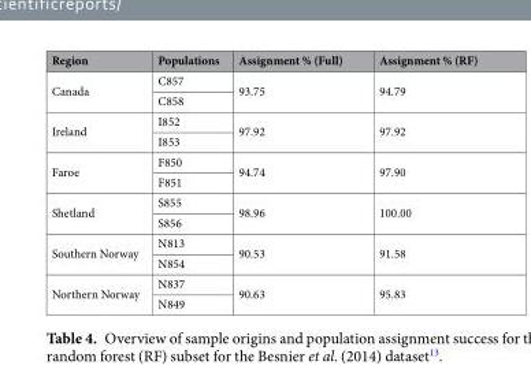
<table><thead><tr><td>Region</td><td>Populations</td><td>Assignment % (Full)</td><td>Assignment % (RF)</td></tr></thead><tbody><tr><td rowspan="2">Canada</td><td>C857</td><td rowspan="2">93.75</td><td rowspan="2">94.79</td></tr><tr><td>C858</td></tr><tr><td rowspan="2">Ireland</td><td>I852</td><td rowspan="2">97.92</td><td rowspan="2">97.92</td></tr><tr><td>I853</td></tr><tr><td rowspan="2">Faroe</td><td>F850</td><td rowspan="2">94.74</td><td rowspan="2">97.90</td></tr><tr><td>F851</td></tr><tr><td rowspan="2">Shetland</td><td>S855</td><td rowspan="2">98.96</td><td rowspan="2">100.00</td></tr><tr><td>S856</td></tr><tr><td rowspan="2">Southern Norway</td><td>N813</td><td rowspan="2">90.53</td><td rowspan="2">91.58</td></tr><tr><td>N854</td></tr><tr><td rowspan="2">Northern Norway</td><td>N837</td><td rowspan="2">90.63</td><td rowspan="2">95.83</td></tr><tr><td>N849</td></tr></tbody></table>